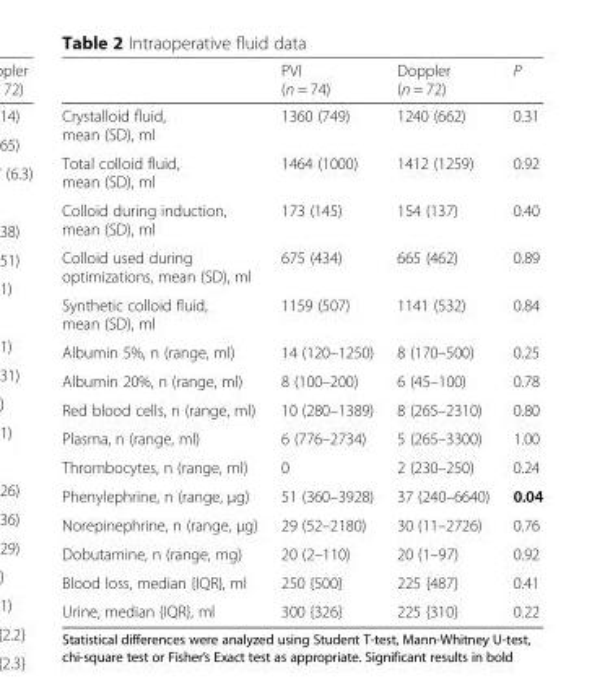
<table><thead><tr><td></td><td>PVI (n = 74)</td><td>Doppler (n = 72)</td><td>P</td></tr></thead><tbody><tr><td>Crystalloid fluid, mean (SD), ml</td><td>1360 (749)</td><td>1240 (662)</td><td>0.31</td></tr><tr><td>Total colloid fluid, mean (SD), ml</td><td>1464 (1000)</td><td>1412 (1259)</td><td>0.92</td></tr><tr><td>Colloid during induction, mean (SD), ml</td><td>173 (145)</td><td>154 (137)</td><td>0.40</td></tr><tr><td>Colloid used during optimizations, mean (SD), ml</td><td>675 (434)</td><td>665 (462)</td><td>0.89</td></tr><tr><td>Synthetic colloid fluid, mean (SD), ml</td><td>1159 (507)</td><td>1141 (532)</td><td>0.84</td></tr><tr><td>Albumin 5%, n (range, ml)</td><td>14 (120–1250)</td><td>8 (170–500)</td><td>0.25</td></tr><tr><td>Albumin 20%, n (range, ml)</td><td>8 (100–200)</td><td>6 (45–100)</td><td>0.78</td></tr><tr><td>Red blood cells, n (range, ml)</td><td>10 (280–1389)</td><td>8 (265–2310)</td><td>0.80</td></tr><tr><td>Plasma, n (range, ml)</td><td>6 (776–2734)</td><td>5 (265–3300)</td><td>1.00</td></tr><tr><td>Thrombocytes, n (range, ml)</td><td>0</td><td>2 (230–250)</td><td>0.24</td></tr><tr><td>Phenylephrine, n (range, μg)</td><td>51 (360–3928)</td><td>37 (240–6640)</td><td>0.04</td></tr><tr><td>Norepinephrine, n (range, μg)</td><td>29 (52–2180)</td><td>30 (11–2726)</td><td>0.76</td></tr><tr><td>Dobutamine, n (range, mg)</td><td>20 (2–110)</td><td>20 (1–97)</td><td>0.92</td></tr><tr><td>Blood loss, median {IQR}, ml</td><td>250 {500}</td><td>225 {487}</td><td>0.41</td></tr><tr><td>Urine, median {IQR}, ml</td><td>300 {326}</td><td>225 {310}</td><td>0.22</td></tr></tbody></table>